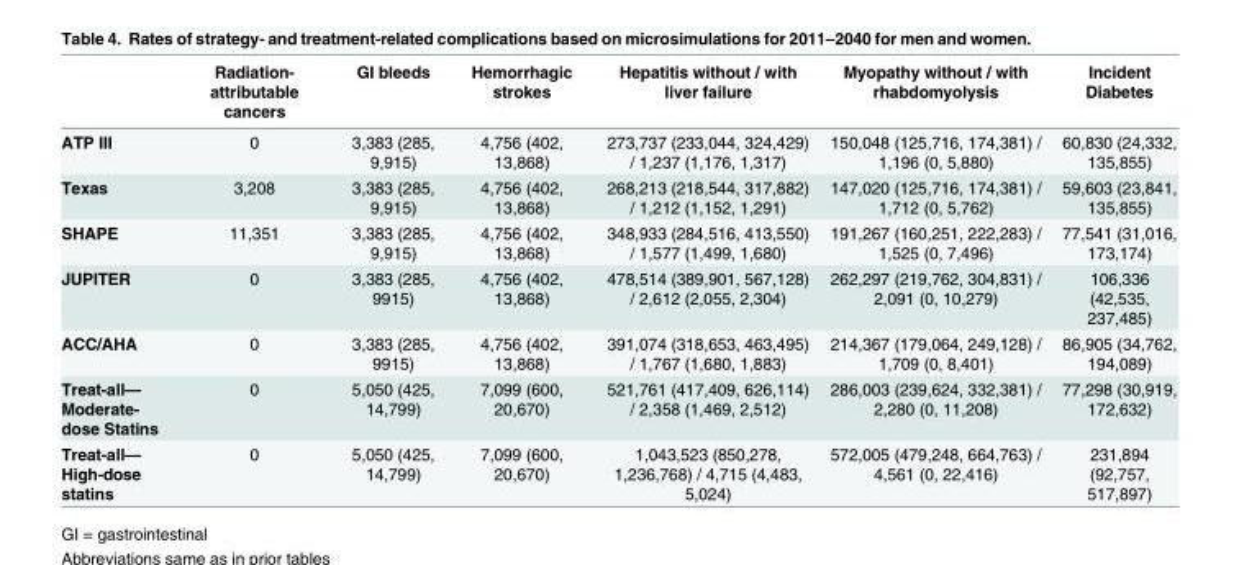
<table><thead><tr><td></td><td>Radiation- attributable cancers</td><td>GI bleeds</td><td>Hemorrhagic strokes</td><td>Hepatitis without / with liver failure</td><td>Myopathy without / with rhabdomyolysis</td><td>Incident Diabetes</td></tr></thead><tbody><tr><td>ATP III</td><td>0</td><td>3,383 (285, 9,915)</td><td>4,756 (402, 13,868)</td><td>273,737 (233,044, 324,429) / 1,237 (1,176, 1,317)</td><td>150,048 (125,716, 174,381) / 1,196 (0, 5,880)</td><td>60,830 (24,332, 135,855)</td></tr><tr><td>Texas</td><td>3,208</td><td>3,383 (285, 9,915)</td><td>4,756 (402, 13,868)</td><td>268,213 (218,544, 317,882) / 1,212 (1,152, 1,291)</td><td>147,020 (125,716, 174,381) / 1,712 (0, 5,762)</td><td>59,603 (23,841, 135,855)</td></tr><tr><td>SHAPE</td><td>11,351</td><td>3,383 (285, 9,915)</td><td>4,756 (402, 13,868)</td><td>348,933 (284,516, 413,550) / 1,577 (1,499, 1,680)</td><td>191,267 (160,251, 222,283) / 1,525 (0, 7,496)</td><td>77,541 (31,016, 173,174)</td></tr><tr><td>JUPITER</td><td>0</td><td>3,383 (285, 9915)</td><td>4,756 (402, 13,868)</td><td>478,514 (389,901, 567,128) / 2,612 (2,055, 2,304)</td><td>262,297 (219,762, 304,831) / 2,091 (0, 10,279)</td><td>106,336 (42,535, 237,485)</td></tr><tr><td>ACC/AHA</td><td>0</td><td>3,383 (285, 9915)</td><td>4,756 (402, 13,868)</td><td>391,074 (318,653, 463,495) / 1,767 (1,680, 1,883)</td><td>214,367 (179,064, 249,128) / 1,709 (0, 8,401)</td><td>86,905 (34,762, 194,089)</td></tr><tr><td>Treat-all— Moderate- dose Statins</td><td>0</td><td>5,050 (425, 14,799)</td><td>7,099 (600, 20,670)</td><td>521,761 (417,409, 626,114) / 2,358 (1,469, 2,512)</td><td>286,003 (239,624, 332,381) / 2,280 (0, 11,208)</td><td>77,298 (30,919, 172,632)</td></tr><tr><td>Treat-all— High-dose statins</td><td>0</td><td>5,050 (425, 14,799)</td><td>7,099 (600, 20,670)</td><td>1,043,523 (850,278, 1,236,768) / 4,715 (4,483, 5,024)</td><td>572,005 (479,248, 664,763) / 4,561 (0, 22,416)</td><td>231,894 (92,757, 517,897)</td></tr></tbody></table>